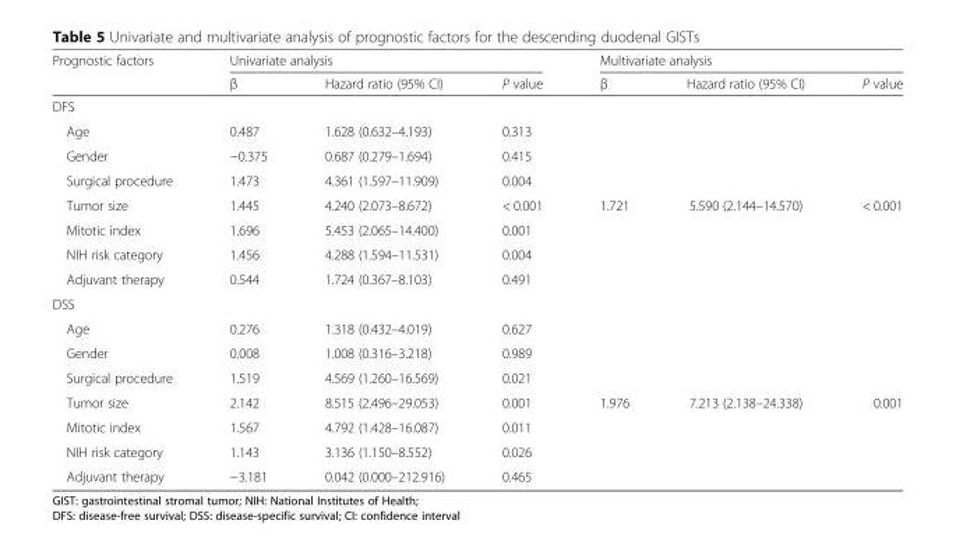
<table><thead><tr><td rowspan="2">Prognostic factors</td><td colspan="3">Univariate analysis</td><td colspan="3">Multivariate analysis</td></tr><tr><td>β</td><td>Hazard ratio (95% CI)</td><td>P value</td><td>β</td><td>Hazard ratio (95% CI)</td><td>P value</td></tr></thead><tbody><tr><td colspan="7">DFS</td></tr><tr><td>Age</td><td>0.487</td><td>1.628 (0.632–4.193)</td><td>0.313</td><td></td><td></td><td></td></tr><tr><td>Gender</td><td>−0.375</td><td>0.687 (0.279–1.694)</td><td>0.415</td><td></td><td></td><td></td></tr><tr><td>Surgical procedure</td><td>1.473</td><td>4.361 (1.597–11.909)</td><td>0.004</td><td></td><td></td><td></td></tr><tr><td>Tumor size</td><td>1.445</td><td>4.240 (2.073–8.672)</td><td>&lt; 0.001</td><td>1.721</td><td>5.590 (2.144–14.570)</td><td>&lt; 0.001</td></tr><tr><td>Mitotic index</td><td>1.696</td><td>5.453 (2.065–14.400)</td><td>0.001</td><td></td><td></td><td></td></tr><tr><td>NIH risk category</td><td>1.456</td><td>4.288 (1.594–11.531)</td><td>0.004</td><td></td><td></td><td></td></tr><tr><td>Adjuvant therapy</td><td>0.544</td><td>1.724 (0.367–8.103)</td><td>0.491</td><td></td><td></td><td></td></tr><tr><td colspan="7">DSS</td></tr><tr><td>Age</td><td>0.276</td><td>1.318 (0.432–4.019)</td><td>0.627</td><td></td><td></td><td></td></tr><tr><td>Gender</td><td>0.008</td><td>1.008 (0.316–3.218)</td><td>0.989</td><td></td><td></td><td></td></tr><tr><td>Surgical procedure</td><td>1.519</td><td>4.569 (1.260–16.569)</td><td>0.021</td><td></td><td></td><td></td></tr><tr><td>Tumor size</td><td>2.142</td><td>8.515 (2.496–29.053)</td><td>0.001</td><td>1.976</td><td>7.213 (2.138–24.338)</td><td>0.001</td></tr><tr><td>Mitotic index</td><td>1.567</td><td>4.792 (1.428–16.087)</td><td>0.011</td><td></td><td></td><td></td></tr><tr><td>NIH risk category</td><td>1.143</td><td>3.136 (1.150–8.552)</td><td>0.026</td><td></td><td></td><td></td></tr><tr><td>Adjuvant therapy</td><td>−3.181</td><td>0.042 (0.000–212.916)</td><td>0.465</td><td></td><td></td><td></td></tr></tbody></table>